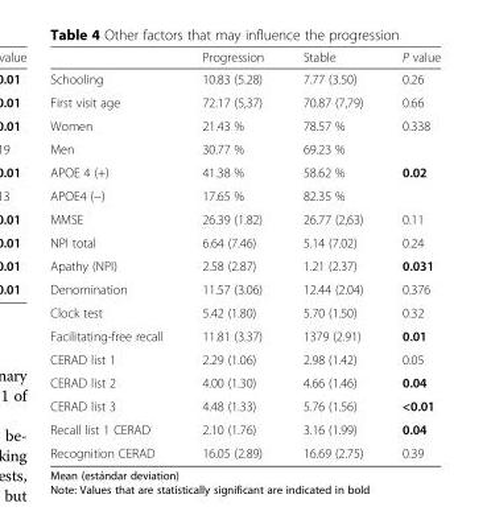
<table><thead><tr><td></td><td>Progression</td><td>Stable</td><td>P value</td></tr></thead><tbody><tr><td>Schooling</td><td>10.83 (5.28)</td><td>7.77 (3.50)</td><td>0.26</td></tr><tr><td>First visit age</td><td>72.17 (5,37)</td><td>70.87 (7,79)</td><td>0.66</td></tr><tr><td>Women</td><td>21.43 %</td><td>78.57 %</td><td rowspan="2">0.338</td></tr><tr><td>Men</td><td>30.77 %</td><td>69.23 %</td></tr><tr><td>APOE 4 (+)</td><td>41.38 %</td><td>58.62 %</td><td rowspan="2">0.02</td></tr><tr><td>APOE4 (−)</td><td>17.65 %</td><td>82.35 %</td></tr><tr><td>MMSE</td><td>26.39 (1.82)</td><td>26.77 (2,63)</td><td>0.11</td></tr><tr><td>NPI total</td><td>6.64 (7.46)</td><td>5.14 (7.02)</td><td>0.24</td></tr><tr><td>Apathy (NPI)</td><td>2.58 (2.87)</td><td>1.21 (2.37)</td><td>0.031</td></tr><tr><td>Denomination</td><td>11.57 (3.06)</td><td>12.44 (2.04)</td><td>0.376</td></tr><tr><td>Clock test</td><td>5.42 (1.80)</td><td>5.70 (1.50)</td><td>0.32</td></tr><tr><td>Facilitating-free recall</td><td>11.81 (3.37)</td><td>1379 (2.91)</td><td>0.01</td></tr><tr><td>CERAD list 1</td><td>2.29 (1.06)</td><td>2.98 (1.42)</td><td>0.05</td></tr><tr><td>CERAD list 2</td><td>4.00 (1.30)</td><td>4.66 (1.46)</td><td>0.04</td></tr><tr><td>CERAD list 3</td><td>4.48 (1.33)</td><td>5.76 (1.56)</td><td>&lt;0.01</td></tr><tr><td>Recall list 1 CERAD</td><td>2.10 (1.76)</td><td>3.16 (1.99)</td><td>0.04</td></tr><tr><td>Recognition CERAD</td><td>16.05 (2.89)</td><td>16.69 (2.75)</td><td>0.39</td></tr></tbody></table>